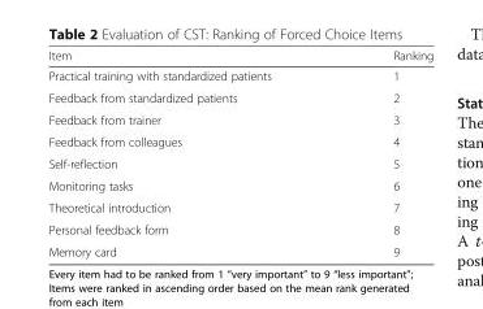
<table><thead><tr><td>Item</td><td>Ranking</td></tr></thead><tbody><tr><td>Practical training with standardized patients</td><td>1</td></tr><tr><td>Feedback from standardized patients</td><td>2</td></tr><tr><td>Feedback from trainer</td><td>3</td></tr><tr><td>Feedback from colleagues</td><td>4</td></tr><tr><td>Self-reflection</td><td>5</td></tr><tr><td>Monitoring tasks</td><td>6</td></tr><tr><td>Theoretical introduction</td><td>7</td></tr><tr><td>Personal feedback form</td><td>8</td></tr><tr><td>Memory card</td><td>9</td></tr></tbody></table>